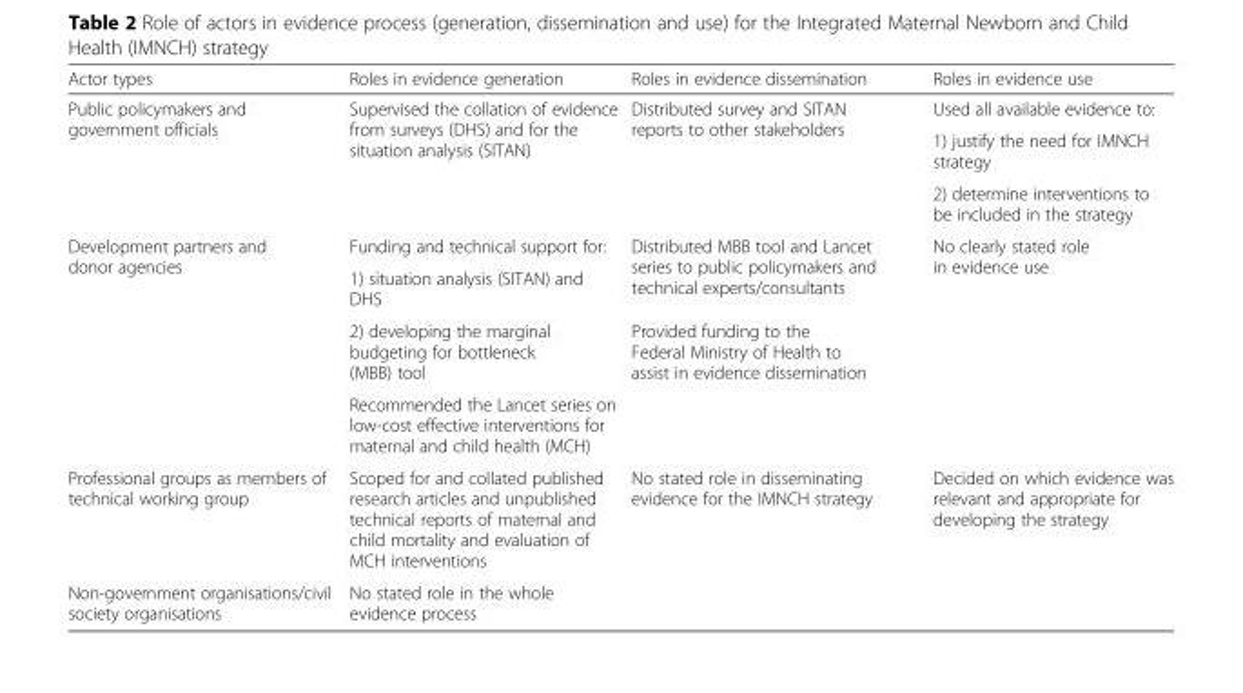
<table><thead><tr><td>Actor types</td><td>Roles in evidence generation</td><td>Roles in evidence dissemination</td><td>Roles in evidence use</td></tr></thead><tbody><tr><td rowspan="3">Public policymakers and government officials</td><td rowspan="3">Supervised the collation of evidence from surveys (DHS) and for the situation analysis (SITAN)</td><td rowspan="3">Distributed survey and SITAN reports to other stakeholders</td><td>Used all available evidence to:</td></tr><tr><td>1) justify the need for IMNCH strategy</td></tr><tr><td>2) determine interventions to be included in the strategy</td></tr><tr><td rowspan="4">Development partners and donor agencies</td><td>Funding and technical support for:</td><td rowspan="2">Distributed MBB tool and Lancet series to public policymakers and technical experts/consultants</td><td rowspan="4">No clearly stated role in evidence use</td></tr><tr><td>1) situation analysis (SITAN) and DHS</td></tr><tr><td>2) developing the marginal budgeting for bottleneck (MBB) tool</td><td rowspan="2">Provided funding to the Federal Ministry of Health to assist in evidence dissemination</td></tr><tr><td>Recommended the Lancet series on low-cost effective interventions for maternal and child health (MCH)</td></tr><tr><td>Professional groups as members of technical working group</td><td>Scoped for and collated published research articles and unpublished technical reports of maternal and child mortality and evaluation of MCH interventions</td><td>No stated role in disseminating evidence for the IMNCH strategy</td><td>Decided on which evidence was relevant and appropriate for developing the strategy</td></tr><tr><td>Non-government organisations/civil society organisations</td><td colspan="3">No stated role in the whole evidence process</td></tr></tbody></table>